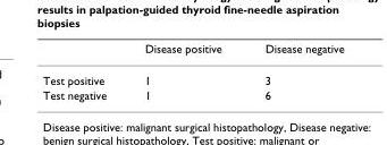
<table><thead><tr><td></td><td>Disease positive</td><td>Disease negative</td></tr></thead><tbody><tr><td>Test positive</td><td>1</td><td>3</td></tr><tr><td>Test negative</td><td>1</td><td>6</td></tr></tbody></table>